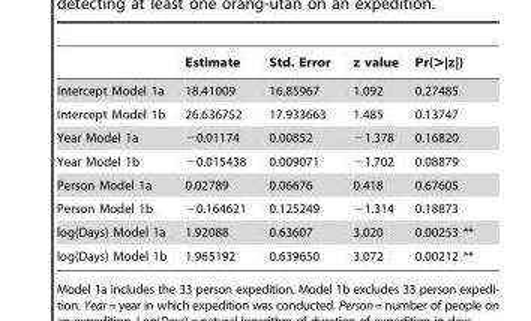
<table><thead><tr><td></td><td>Estimate</td><td>Std. Error</td><td>z value</td><td>Pr(&gt;|z|)</td></tr></thead><tbody><tr><td>Intercept Model 1a</td><td>18.41009</td><td>16.85967</td><td>1.092</td><td>0.27485</td></tr><tr><td>Intercept Model 1b</td><td>26.636752</td><td>17.933663</td><td>1.485</td><td>0.13747</td></tr><tr><td>Year Model 1a</td><td>−0.01174</td><td>0.00852</td><td>−1.378</td><td>0.16820</td></tr><tr><td>Year Model 1b</td><td>−0.015438</td><td>0.009071</td><td>−1.702</td><td>0.08879</td></tr><tr><td>Person Model 1a</td><td>0.02789</td><td>0.06676</td><td>0.418</td><td>0.67605</td></tr><tr><td>Person Model 1b</td><td>−0.164621</td><td>0.125249</td><td>−1.314</td><td>0.18873</td></tr><tr><td>log(Days) Model 1a</td><td>1.92088</td><td>0.63607</td><td>3.020</td><td>0.00253 **</td></tr><tr><td>log(Days) Model 1b</td><td>1.965192</td><td>0.639650</td><td>3.072</td><td>0.00212 **</td></tr></tbody></table>